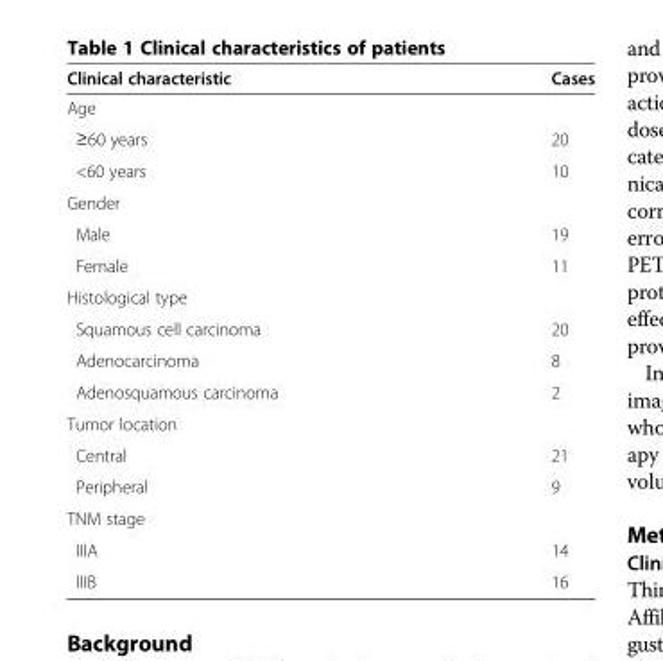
<table><thead><tr><td>Clinical characteristic</td><td>Cases</td></tr></thead><tbody><tr><td colspan="2">Age</td></tr><tr><td>≥60 years</td><td>20</td></tr><tr><td>&lt;60 years</td><td>10</td></tr><tr><td colspan="2">Gender</td></tr><tr><td>Male</td><td>19</td></tr><tr><td>Female</td><td>11</td></tr><tr><td colspan="2">Histological type</td></tr><tr><td>Squamous cell carcinoma</td><td>20</td></tr><tr><td>Adenocarcinoma</td><td>8</td></tr><tr><td>Adenosquamous carcinoma</td><td>2</td></tr><tr><td colspan="2">Tumor location</td></tr><tr><td>Central</td><td>21</td></tr><tr><td>Peripheral</td><td>9</td></tr><tr><td colspan="2">TNM stage</td></tr><tr><td>IIIA</td><td>14</td></tr><tr><td>IIIB</td><td>16</td></tr></tbody></table>